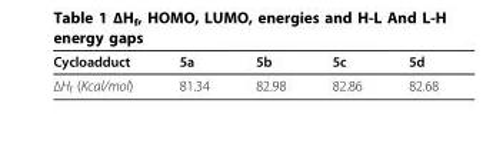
<table><thead><tr><td>Cycloadduct</td><td>5a</td><td>5b</td><td>5c</td><td>5d</td></tr></thead><tbody><tr><td>ΔH<sub>f</sub> (Kcal/mol)</td><td>81.34</td><td>82.98</td><td>82.86</td><td>82.68</td></tr></tbody></table>